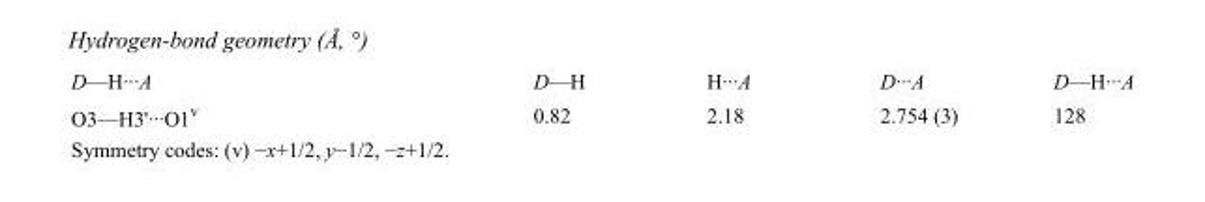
<table><tbody><tr><td>D—H···A</td><td>D—H</td><td>H···A</td><td>D···A</td><td>D—H···A</td></tr><tr><td>O3—H3&#x27;···O1<sup>v</sup></td><td>0.82</td><td>2.18</td><td>2.754 (3)</td><td>128</td></tr></tbody></table>